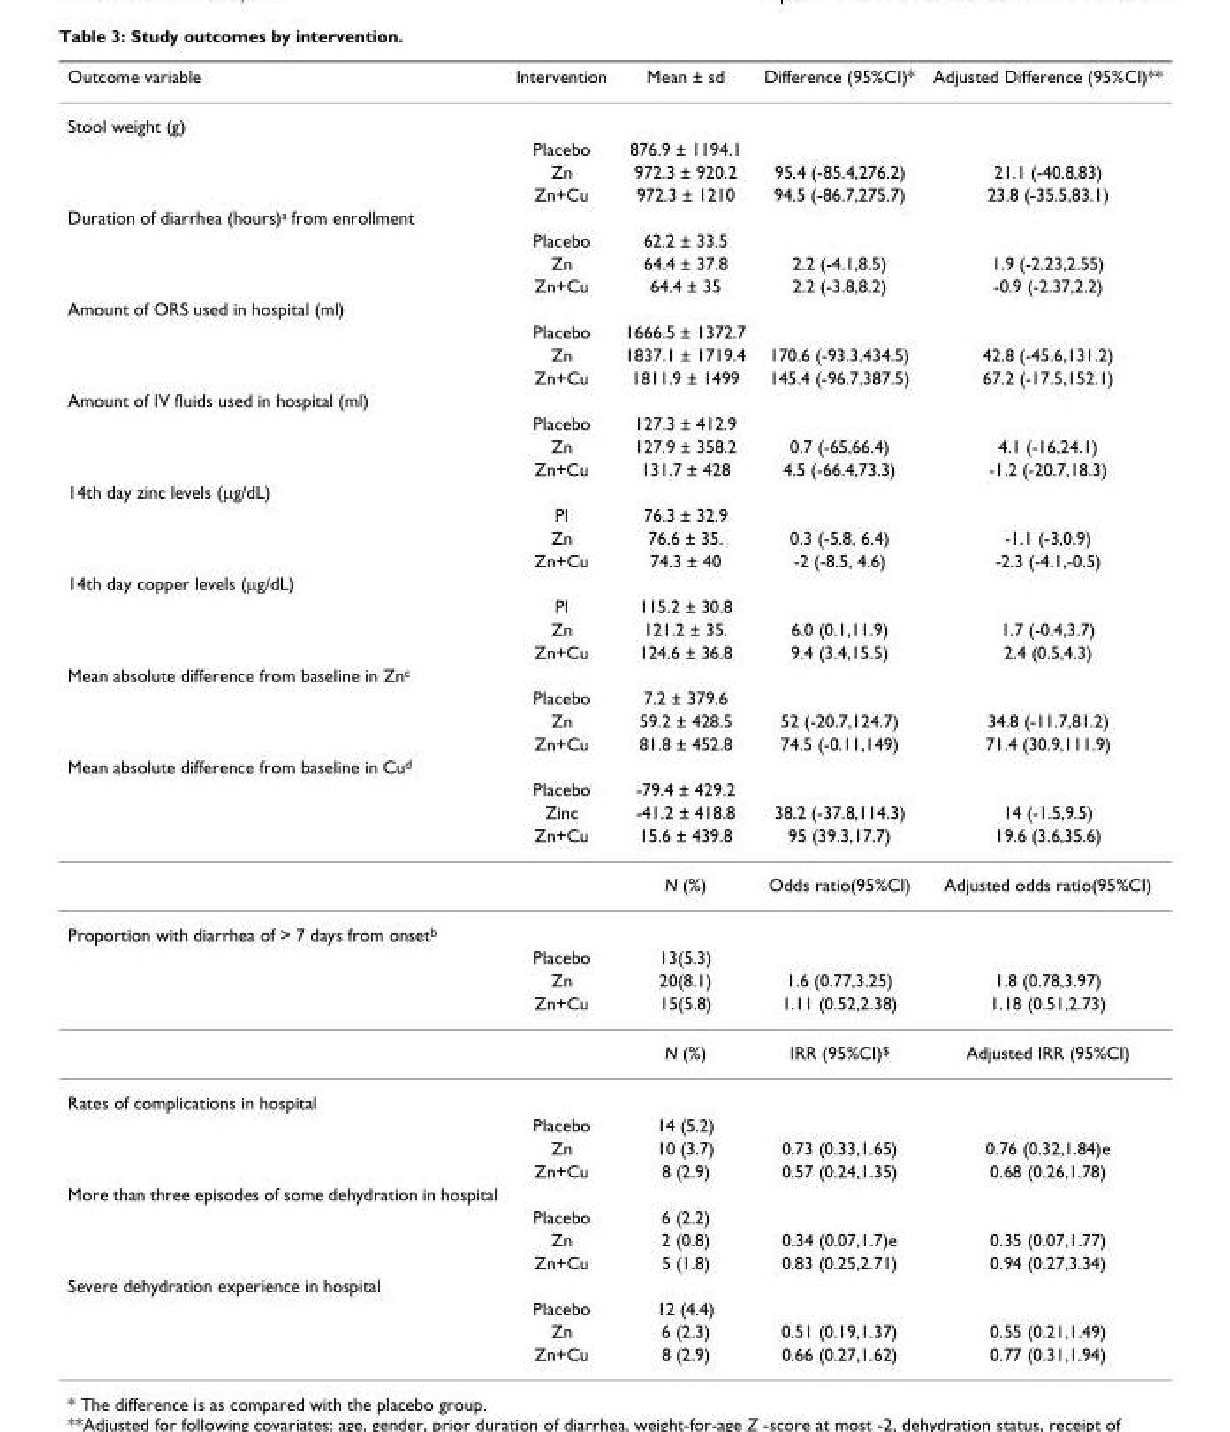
<table><thead><tr><td>Outcome variable</td><td>Intervention</td><td>Mean ± sd</td><td>Difference (95%CI)*</td><td>Adjusted Difference (95%CI)**</td></tr></thead><tbody><tr><td colspan="5">Stool weight (g)</td></tr><tr><td></td><td>Placebo</td><td>876.9 ± 1194.1</td><td></td><td></td></tr><tr><td></td><td>Zn</td><td>972.3 ± 920.2</td><td>95.4 (-85.4,276.2)</td><td>21.1 (-40.8,83)</td></tr><tr><td></td><td>Zn+Cu</td><td>972.3 ± 1210</td><td>94.5 (-86.7,275.7)</td><td>23.8 (-35.5,83.1)</td></tr><tr><td colspan="5">Duration of diarrhea (hours)<sup>a</sup> from enrollment</td></tr><tr><td></td><td>Placebo</td><td>62.2 ± 33.5</td><td></td><td></td></tr><tr><td></td><td>Zn</td><td>64.4 ± 37.8</td><td>2.2 (-4.1,8.5)</td><td>1.9 (-2.23,2.55)</td></tr><tr><td></td><td>Zn+Cu</td><td>64.4 ± 35</td><td>2.2 (-3.8,8.2)</td><td>-0.9 (-2.37,2.2)</td></tr><tr><td colspan="5">Amount of ORS used in hospital (ml)</td></tr><tr><td></td><td>Placebo</td><td>1666.5 ± 1372.7</td><td></td><td></td></tr><tr><td></td><td>Zn</td><td>1837.1 ± 1719.4</td><td>170.6 (-93.3,434.5)</td><td>42.8 (-45.6,131.2)</td></tr><tr><td></td><td>Zn+Cu</td><td>1811.9 ± 1499</td><td>145.4 (-96.7,387.5)</td><td>67.2 (-17.5,152.1)</td></tr><tr><td colspan="5">Amount of IV fluids used in hospital (ml)</td></tr><tr><td></td><td>Placebo</td><td>127.3 ± 412.9</td><td></td><td></td></tr><tr><td></td><td>Zn</td><td>127.9 ± 358.2</td><td>0.7 (-65,66.4)</td><td>4.1 (-16,24.1)</td></tr><tr><td></td><td>Zn+Cu</td><td>131.7 ± 428</td><td>4.5 (-66.4,73.3)</td><td>-1.2 (-20.7,18.3)</td></tr><tr><td colspan="5">14th day zinc levels (μg/dL)</td></tr><tr><td></td><td>Pl</td><td>76.3 ± 32.9</td><td></td><td></td></tr><tr><td></td><td>Zn</td><td>76.6 ± 35.</td><td>0.3 (-5.8, 6.4)</td><td>-1.1 (-3,0.9)</td></tr><tr><td></td><td>Zn+Cu</td><td>74.3 ± 40</td><td>-2 (-8.5, 4.6)</td><td>-2.3 (-4.1,-0.5)</td></tr><tr><td colspan="5">14th day copper levels (μg/dL)</td></tr><tr><td></td><td>Pl</td><td>115.2 ± 30.8</td><td></td><td></td></tr><tr><td></td><td>Zn</td><td>121.2 ± 35.</td><td>6.0 (0.1,11.9)</td><td>1.7 (-0.4,3.7)</td></tr><tr><td></td><td>Zn+Cu</td><td>124.6 ± 36.8</td><td>9.4 (3.4,15.5)</td><td>2.4 (0.5,4.3)</td></tr><tr><td colspan="5">Mean absolute difference from baseline in Zn<sup>c</sup></td></tr><tr><td></td><td>Placebo</td><td>7.2 ± 379.6</td><td></td><td></td></tr><tr><td></td><td>Zn</td><td>59.2 ± 428.5</td><td>52 (-20.7,124.7)</td><td>34.8 (-11.7,81.2)</td></tr><tr><td></td><td>Zn+Cu</td><td>81.8 ± 452.8</td><td>74.5 (-0.11,149)</td><td>71.4 (30.9,111.9)</td></tr><tr><td colspan="5">Mean absolute difference from baseline in Cu<sup>d</sup></td></tr><tr><td></td><td>Placebo</td><td>-79.4 ± 429.2</td><td></td><td></td></tr><tr><td></td><td>Zinc</td><td>-41.2 ± 418.8</td><td>38.2 (-37.8,114.3)</td><td>14 (-1.5,9.5)</td></tr><tr><td></td><td>Zn+Cu</td><td>15.6 ± 439.8</td><td>95 (39.3,17.7)</td><td>19.6 (3.6,35.6)</td></tr><tr><td></td><td></td><td>N (%)</td><td>Odds ratio(95%CI)</td><td>Adjusted odds ratio(95%CI)</td></tr><tr><td colspan="5">Proportion with diarrhea of &gt; 7 days from onset<sup>b</sup></td></tr><tr><td></td><td>Placebo</td><td>13(5.3)</td><td></td><td></td></tr><tr><td></td><td>Zn</td><td>20(8.1)</td><td>1.6 (0.77,3.25)</td><td>1.8 (0.78,3.97)</td></tr><tr><td></td><td>Zn+Cu</td><td>15(5.8)</td><td>1.11 (0.52,2.38)</td><td>1.18 (0.51,2.73)</td></tr><tr><td></td><td></td><td>N (%)</td><td>IRR (95%CI)<sup>$</sup></td><td>Adjusted IRR (95%CI)</td></tr><tr><td colspan="5">Rates of complications in hospital</td></tr><tr><td></td><td>Placebo</td><td>14 (5.2)</td><td></td><td></td></tr><tr><td></td><td>Zn</td><td>10 (3.7)</td><td>0.73 (0.33,1.65)</td><td>0.76 (0.32,1.84)e</td></tr><tr><td></td><td>Zn+Cu</td><td>8 (2.9)</td><td>0.57 (0.24,1.35)</td><td>0.68 (0.26,1.78)</td></tr><tr><td colspan="5">More than three episodes of some dehydration in hospital</td></tr><tr><td></td><td>Placebo</td><td>6 (2.2)</td><td></td><td></td></tr><tr><td></td><td>Zn</td><td>2 (0.8)</td><td>0.34 (0.07,1.7)e</td><td>0.35 (0.07,1.77)</td></tr><tr><td></td><td>Zn+Cu</td><td>5 (1.8)</td><td>0.83 (0.25,2.71)</td><td>0.94 (0.27,3.34)</td></tr><tr><td colspan="5">Severe dehydration experience in hospital</td></tr><tr><td></td><td>Placebo</td><td>12 (4.4)</td><td></td><td></td></tr><tr><td></td><td>Zn</td><td>6 (2.3)</td><td>0.51 (0.19,1.37)</td><td>0.55 (0.21,1.49)</td></tr><tr><td></td><td>Zn+Cu</td><td>8 (2.9)</td><td>0.66 (0.27,1.62)</td><td>0.77 (0.31,1.94)</td></tr></tbody></table>